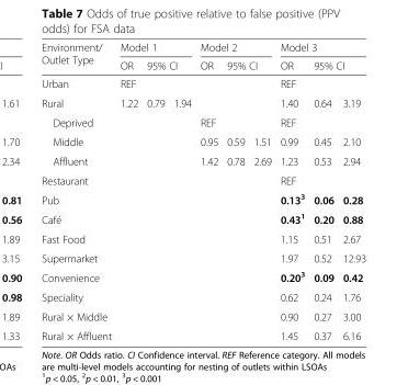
<table><thead><tr><td rowspan="3">Environment/ Outlet Type Urban</td><td colspan="3">Model 1</td><td colspan="3">Model 2</td><td colspan="3">Model 3</td></tr><tr><td rowspan="2">OR REF</td><td colspan="2">95% CI</td><td rowspan="2">OR</td><td colspan="2">95% CI</td><td rowspan="2">OR REF</td><td colspan="2">95% CI</td></tr><tr><td></td><td></td><td></td><td></td><td></td><td></td></tr></thead><tbody><tr><td>Rural</td><td>1.22</td><td>0.79</td><td>1.94</td><td></td><td></td><td></td><td>1.40</td><td>0.64</td><td>3.19</td></tr><tr><td>Deprived</td><td></td><td></td><td></td><td>REF</td><td></td><td></td><td>REF</td><td></td><td></td></tr><tr><td>Middle</td><td></td><td></td><td></td><td>0.95</td><td>0.59</td><td>1.51</td><td>0.99</td><td>0.45</td><td>2.10</td></tr><tr><td>Affluent</td><td></td><td></td><td></td><td>1.42</td><td>0.78</td><td>2.69</td><td>1.23</td><td>0.53</td><td>2.94</td></tr><tr><td>Restaurant</td><td></td><td></td><td></td><td></td><td></td><td></td><td>REF</td><td></td><td></td></tr><tr><td>Pub</td><td></td><td></td><td></td><td></td><td></td><td></td><td>0.13<sup>3</sup></td><td>0.06</td><td>0.28</td></tr><tr><td>Café</td><td></td><td></td><td></td><td></td><td></td><td></td><td>0.43<sup>1</sup></td><td>0.20</td><td>0.88</td></tr><tr><td>Fast Food</td><td></td><td></td><td></td><td></td><td></td><td></td><td>1.15</td><td>0.51</td><td>2.67</td></tr><tr><td>Supermarket</td><td></td><td></td><td></td><td></td><td></td><td></td><td>1.97</td><td>0.52</td><td>12.93</td></tr><tr><td>Convenience</td><td></td><td></td><td></td><td></td><td></td><td></td><td>0.20<sup>3</sup></td><td>0.09</td><td>0.42</td></tr><tr><td>Speciality</td><td></td><td></td><td></td><td></td><td></td><td></td><td>0.62</td><td>0.24</td><td>1.76</td></tr><tr><td>Rural × Middle</td><td></td><td></td><td></td><td></td><td></td><td></td><td>0.90</td><td>0.27</td><td>3.00</td></tr><tr><td>Rural × Affluent</td><td></td><td></td><td></td><td></td><td></td><td></td><td>1.45</td><td>0.37</td><td>6.16</td></tr></tbody></table>